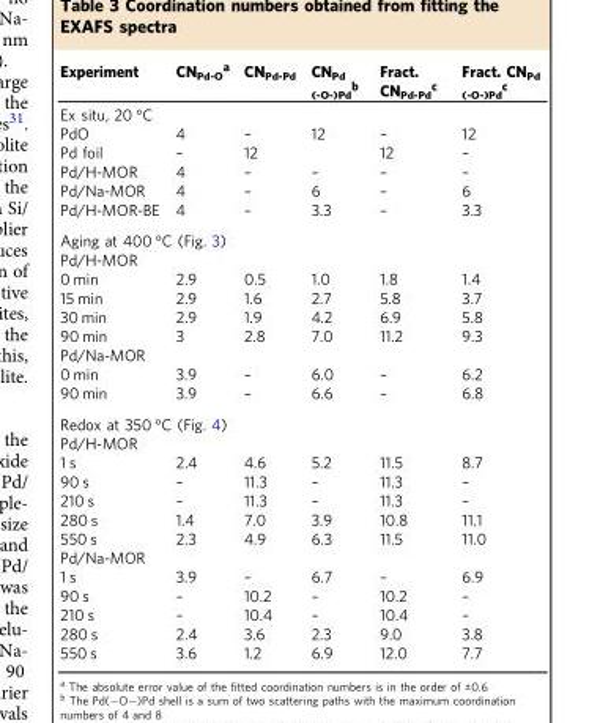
<table><thead><tr><td>Experiment</td><td>CN<sub>Pd-O</sub><sup>a</sup></td><td>CN<sub>Pd-Pd</sub></td><td>CN<sub>Pd (-O-)Pd</sub><sup>b</sup></td><td>Fract. CN<sub>Pd-Pd</sub><sup>c</sup></td><td>Fract. CN<sub>Pd (-O-)Pd</sub><sup>c</sup></td></tr></thead><tbody><tr><td colspan="6">Ex situ, 20 °C</td></tr><tr><td>PdO</td><td>4</td><td>–</td><td>12</td><td>–</td><td>12</td></tr><tr><td>Pd foil</td><td>–</td><td>12</td><td></td><td>12</td><td>–</td></tr><tr><td>Pd/H-MOR</td><td>4</td><td>–</td><td>–</td><td>–</td><td>–</td></tr><tr><td>Pd/Na-MOR</td><td>4</td><td>–</td><td>6</td><td>–</td><td>6</td></tr><tr><td>Pd/H-MOR-BE</td><td>4</td><td>–</td><td>3.3</td><td>–</td><td>3.3</td></tr><tr><td colspan="6">Aging at 400 °C (Fig. 3) Pd/H-MOR</td></tr><tr><td>0 min</td><td>2.9</td><td>0.5</td><td>1.0</td><td>1.8</td><td>1.4</td></tr><tr><td>15 min</td><td>2.9</td><td>1.6</td><td>2.7</td><td>5.8</td><td>3.7</td></tr><tr><td>30 min</td><td>2.9</td><td>1.9</td><td>4.2</td><td>6.9</td><td>5.8</td></tr><tr><td>90 min</td><td>3</td><td>2.8</td><td>7.0</td><td>11.2</td><td>9.3</td></tr><tr><td colspan="6">Pd/Na-MOR</td></tr><tr><td>0 min</td><td>3.9</td><td>–</td><td>6.0</td><td>–</td><td>6.2</td></tr><tr><td>90 min</td><td>3.9</td><td>–</td><td>6.6</td><td>–</td><td>6.8</td></tr><tr><td colspan="6">Redox at 350 °C (Fig. 4) Pd/H-MOR</td></tr><tr><td>1 s</td><td>2.4</td><td>4.6</td><td>5.2</td><td>11.5</td><td>8.7</td></tr><tr><td>90 s</td><td>–</td><td>11.3</td><td>–</td><td>11.3</td><td>–</td></tr><tr><td>210 s</td><td>–</td><td>11.3</td><td>–</td><td>11.3</td><td>–</td></tr><tr><td>280 s</td><td>1.4</td><td>7.0</td><td>3.9</td><td>10.8</td><td>11.1</td></tr><tr><td>550 s</td><td>2.3</td><td>4.9</td><td>6.3</td><td>11.5</td><td>11.0</td></tr><tr><td colspan="6">Pd/Na-MOR</td></tr><tr><td>1 s</td><td>3.9</td><td>–</td><td>6.7</td><td>–</td><td>6.9</td></tr><tr><td>90 s</td><td>–</td><td>10.2</td><td>–</td><td>10.2</td><td>–</td></tr><tr><td>210 s</td><td>–</td><td>10.4</td><td>–</td><td>10.4</td><td>–</td></tr><tr><td>280 s</td><td>2.4</td><td>3.6</td><td>2.3</td><td>9.0</td><td>3.8</td></tr><tr><td>550 s</td><td>3.6</td><td>1.2</td><td>6.9</td><td>12.0</td><td>7.7</td></tr></tbody></table>